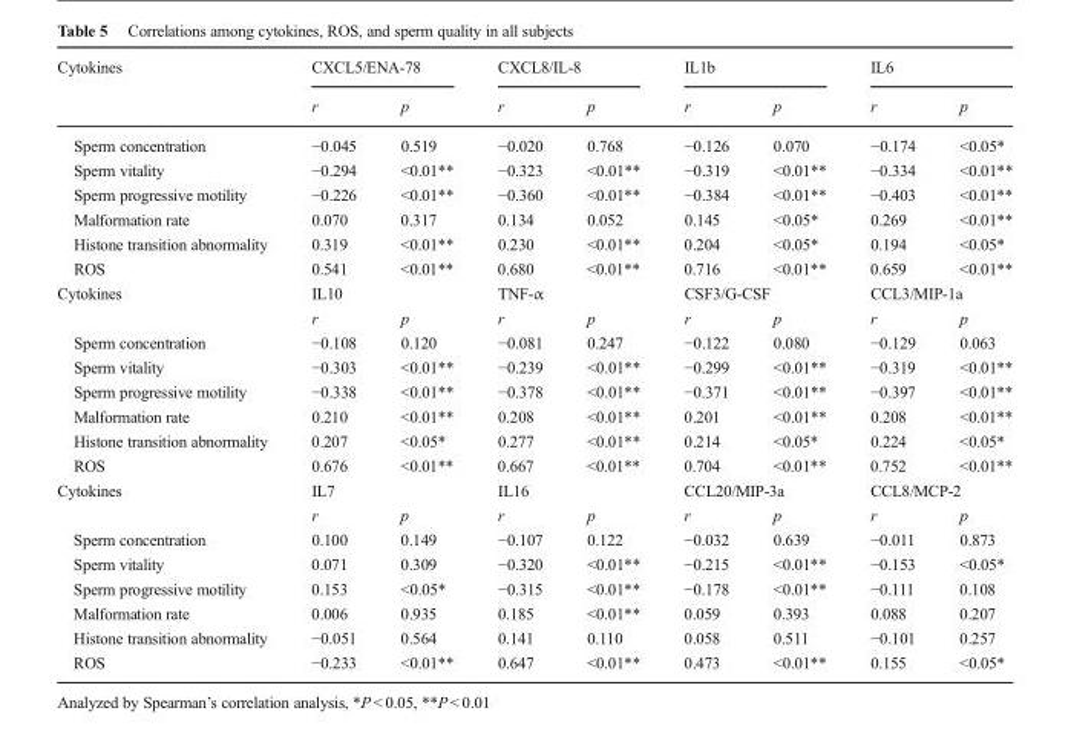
<table><thead><tr><td rowspan="2">Cytokines</td><td colspan="2">CXCL5/ENA-78</td><td colspan="2">CXCL8/IL-8</td><td colspan="2">IL1b</td><td colspan="2">IL6</td></tr><tr><td>r</td><td>p</td><td>r</td><td>p</td><td>r</td><td>p</td><td>r</td><td>p</td></tr></thead><tbody><tr><td>Sperm concentration</td><td>−0.045</td><td>0.519</td><td>−0.020</td><td>0.768</td><td>−0.126</td><td>0.070</td><td>−0.174</td><td>&lt;0.05*</td></tr><tr><td>Sperm vitality</td><td>−0.294</td><td>&lt;0.01**</td><td>−0.323</td><td>&lt;0.01**</td><td>−0.319</td><td>&lt;0.01**</td><td>−0.334</td><td>&lt;0.01**</td></tr><tr><td>Sperm progressive motility</td><td>−0.226</td><td>&lt;0.01**</td><td>−0.360</td><td>&lt;0.01**</td><td>−0.384</td><td>&lt;0.01**</td><td>−0.403</td><td>&lt;0.01**</td></tr><tr><td>Malformation rate</td><td>0.070</td><td>0.317</td><td>0.134</td><td>0.052</td><td>0.145</td><td>&lt;0.05*</td><td>0.269</td><td>&lt;0.01**</td></tr><tr><td>Histone transition abnormality</td><td>0.319</td><td>&lt;0.01**</td><td>0.230</td><td>&lt;0.01**</td><td>0.204</td><td>&lt;0.05*</td><td>0.194</td><td>&lt;0.05*</td></tr><tr><td>ROS</td><td>0.541</td><td>&lt;0.01**</td><td>0.680</td><td>&lt;0.01**</td><td>0.716</td><td>&lt;0.01**</td><td>0.659</td><td>&lt;0.01**</td></tr><tr><td rowspan="2">Cytokines</td><td colspan="2">IL10</td><td colspan="2">TNF-α</td><td colspan="2">CSF3/G-CSF</td><td colspan="2">CCL3/MIP-1a</td></tr><tr><td>r</td><td>p</td><td>r</td><td>p</td><td>r</td><td>p</td><td>r</td><td>p</td></tr><tr><td>Sperm concentration</td><td>−0.108</td><td>0.120</td><td>−0.081</td><td>0.247</td><td>−0.122</td><td>0.080</td><td>−0.129</td><td>0.063</td></tr><tr><td>Sperm vitality</td><td>−0.303</td><td>&lt;0.01**</td><td>−0.239</td><td>&lt;0.01**</td><td>−0.299</td><td>&lt;0.01**</td><td>−0.319</td><td>&lt;0.01**</td></tr><tr><td>Sperm progressive motility</td><td>−0.338</td><td>&lt;0.01**</td><td>−0.378</td><td>&lt;0.01**</td><td>−0.371</td><td>&lt;0.01**</td><td>−0.397</td><td>&lt;0.01**</td></tr><tr><td>Malformation rate</td><td>0.210</td><td>&lt;0.01**</td><td>0.208</td><td>&lt;0.01**</td><td>0.201</td><td>&lt;0.01**</td><td>0.208</td><td>&lt;0.01**</td></tr><tr><td>Histone transition abnormality</td><td>0.207</td><td>&lt;0.05*</td><td>0.277</td><td>&lt;0.01**</td><td>0.214</td><td>&lt;0.05*</td><td>0.224</td><td>&lt;0.05*</td></tr><tr><td>ROS</td><td>0.676</td><td>&lt;0.01**</td><td>0.667</td><td>&lt;0.01**</td><td>0.704</td><td>&lt;0.01**</td><td>0.752</td><td>&lt;0.01**</td></tr><tr><td rowspan="2">Cytokines</td><td colspan="2">IL7</td><td colspan="2">IL16</td><td colspan="2">CCL20/MIP-3a</td><td colspan="2">CCL8/MCP-2</td></tr><tr><td>r</td><td>p</td><td>r</td><td>p</td><td>r</td><td>p</td><td>r</td><td>p</td></tr><tr><td>Sperm concentration</td><td>0.100</td><td>0.149</td><td>−0.107</td><td>0.122</td><td>−0.032</td><td>0.639</td><td>−0.011</td><td>0.873</td></tr><tr><td>Sperm vitality</td><td>0.071</td><td>0.309</td><td>−0.320</td><td>&lt;0.01**</td><td>−0.215</td><td>&lt;0.01**</td><td>−0.153</td><td>&lt;0.05*</td></tr><tr><td>Sperm progressive motility</td><td>0.153</td><td>&lt;0.05*</td><td>−0.315</td><td>&lt;0.01**</td><td>−0.178</td><td>&lt;0.01**</td><td>−0.111</td><td>0.108</td></tr><tr><td>Malformation rate</td><td>0.006</td><td>0.935</td><td>0.185</td><td>&lt;0.01**</td><td>0.059</td><td>0.393</td><td>0.088</td><td>0.207</td></tr><tr><td>Histone transition abnormality</td><td>−0.051</td><td>0.564</td><td>0.141</td><td>0.110</td><td>0.058</td><td>0.511</td><td>−0.101</td><td>0.257</td></tr><tr><td>ROS</td><td>−0.233</td><td>&lt;0.01**</td><td>0.647</td><td>&lt;0.01**</td><td>0.473</td><td>&lt;0.01**</td><td>0.155</td><td>&lt;0.05*</td></tr></tbody></table>